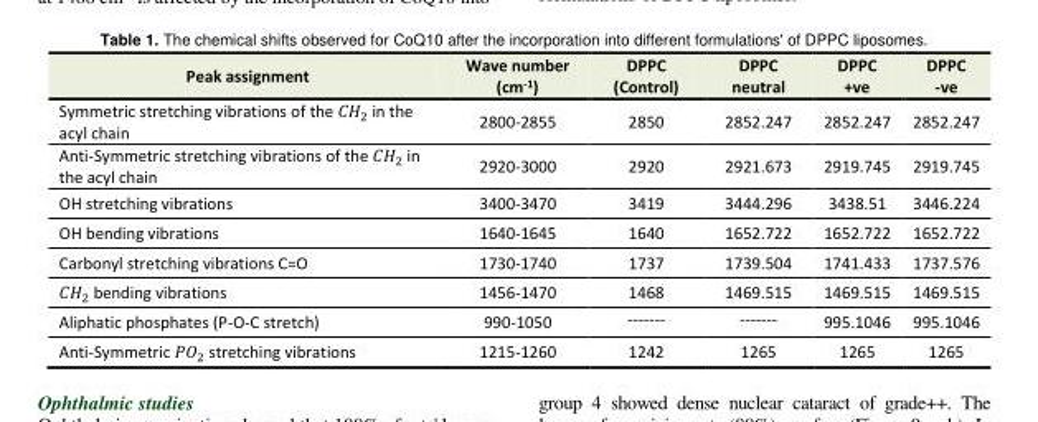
<table><tbody><tr><td>Peak assignment</td><td>Wave number (cm<sup>-1</sup>)</td><td>DPPC (Control)</td><td>DPPC neutral</td><td>DPPC +ve</td><td>DPPC -ve</td></tr><tr><td>Symmetric stretching vibrations of the 𝐶𝐻<sub>2</sub> in the acyl chain</td><td>2800-2855</td><td>2850</td><td>2852.247</td><td>2852.247</td><td>2852.247</td></tr><tr><td>Anti-Symmetric stretching vibrations of the 𝐶𝐻<sub>2</sub> in the acyl chain</td><td>2920-3000</td><td>2920</td><td>2921.673</td><td>2919.745</td><td>2919.745</td></tr><tr><td>OH stretching vibrations</td><td>3400-3470</td><td>3419</td><td>3444.296</td><td>3438.51</td><td>3446.224</td></tr><tr><td>OH bending vibrations</td><td>1640-1645</td><td>1640</td><td>1652.722</td><td>1652.722</td><td>1652.722</td></tr><tr><td>Carbonyl stretching vibrations C=O</td><td>1730-1740</td><td>1737</td><td>1739.504</td><td>1741.433</td><td>1737.576</td></tr><tr><td>𝐶𝐻<sub>2</sub> bending vibrations</td><td>1456-1470</td><td>1468</td><td>1469.515</td><td>1469.515</td><td>1469.515</td></tr><tr><td>Aliphatic phosphates (P-O-C stretch)</td><td>990-1050</td><td>-------</td><td>-------</td><td>995.1046</td><td>995.1046</td></tr><tr><td>Anti-Symmetric 𝑃𝑂<sub>2</sub> stretching vibrations</td><td>1215-1260</td><td>1242</td><td>1265</td><td>1265</td><td>1265</td></tr></tbody></table>